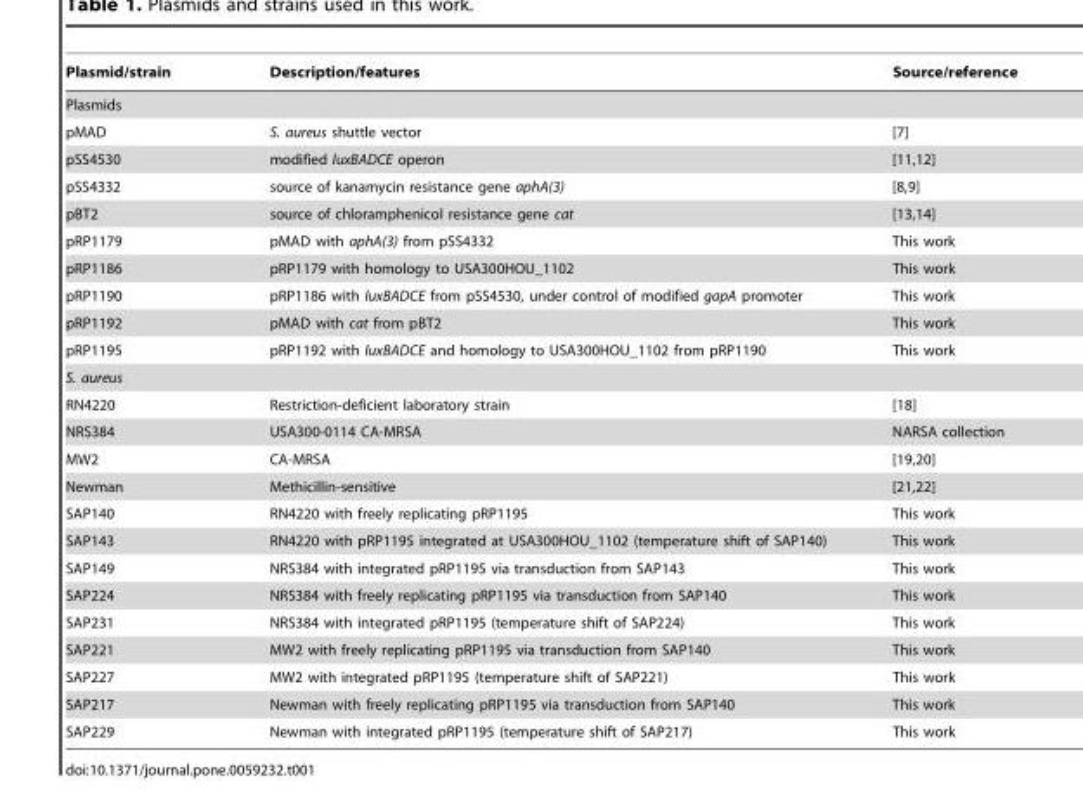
<table><thead><tr><td>Plasmid/strain</td><td>Description/features</td><td>Source/reference</td></tr></thead><tbody><tr><td colspan="3">Plasmids</td></tr><tr><td>pMAD</td><td>S. aureus shuttle vector</td><td>[7]</td></tr><tr><td>pSS4530</td><td>modified luxBADCE operon</td><td>[11,12]</td></tr><tr><td>pSS4332</td><td>source of kanamycin resistance gene aphA(3)</td><td>[8,9]</td></tr><tr><td>pBT2</td><td>source of chloramphenicol resistance gene cat</td><td>[13,14]</td></tr><tr><td>pRP1179</td><td>pMAD with aphA(3) from pSS4332</td><td>This work</td></tr><tr><td>pRP1186</td><td>pRP1179 with homology to USA300HOU_1102</td><td>This work</td></tr><tr><td>pRP1190</td><td>pRP1186 with luxBADCE from pSS4530, under control of modified gapA promoter</td><td>This work</td></tr><tr><td>pRP1192</td><td>pMAD with cat from pBT2</td><td>This work</td></tr><tr><td>pRP1195</td><td>pRP1192 with luxBADCE and homology to USA300HOU_1102 from pRP1190</td><td>This work</td></tr><tr><td colspan="3">S. aureus</td></tr><tr><td>RN4220</td><td>Restriction-deficient laboratory strain</td><td>[18]</td></tr><tr><td>NRS384</td><td>USA300-0114 CA-MRSA</td><td>NARSA collection</td></tr><tr><td>MW2</td><td>CA-MRSA</td><td>[19,20]</td></tr><tr><td>Newman</td><td>Methicillin-sensitive</td><td>[21,22]</td></tr><tr><td>SAP140</td><td>RN4220 with freely replicating pRP1195</td><td>This work</td></tr><tr><td>SAP143</td><td>RN4220 with pRP1195 integrated at USA300HOU_1102 (temperature shift of SAP140)</td><td>This work</td></tr><tr><td>SAP149</td><td>NRS384 with integrated pRP1195 via transduction from SAP143</td><td>This work</td></tr><tr><td>SAP224</td><td>NRS384 with freely replicating pRP1195 via transduction from SAP140</td><td>This work</td></tr><tr><td>SAP231</td><td>NRS384 with integrated pRP1195 (temperature shift of SAP224)</td><td>This work</td></tr><tr><td>SAP221</td><td>MW2 with freely replicating pRP1195 via transduction from SAP140</td><td>This work</td></tr><tr><td>SAP227</td><td>MW2 with integrated pRP1195 (temperature shift of SAP221)</td><td>This work</td></tr><tr><td>SAP217</td><td>Newman with freely replicating pRP1195 via transduction from SAP140</td><td>This work</td></tr><tr><td>SAP229</td><td>Newman with integrated pRP1195 (temperature shift of SAP217)</td><td>This work</td></tr></tbody></table>